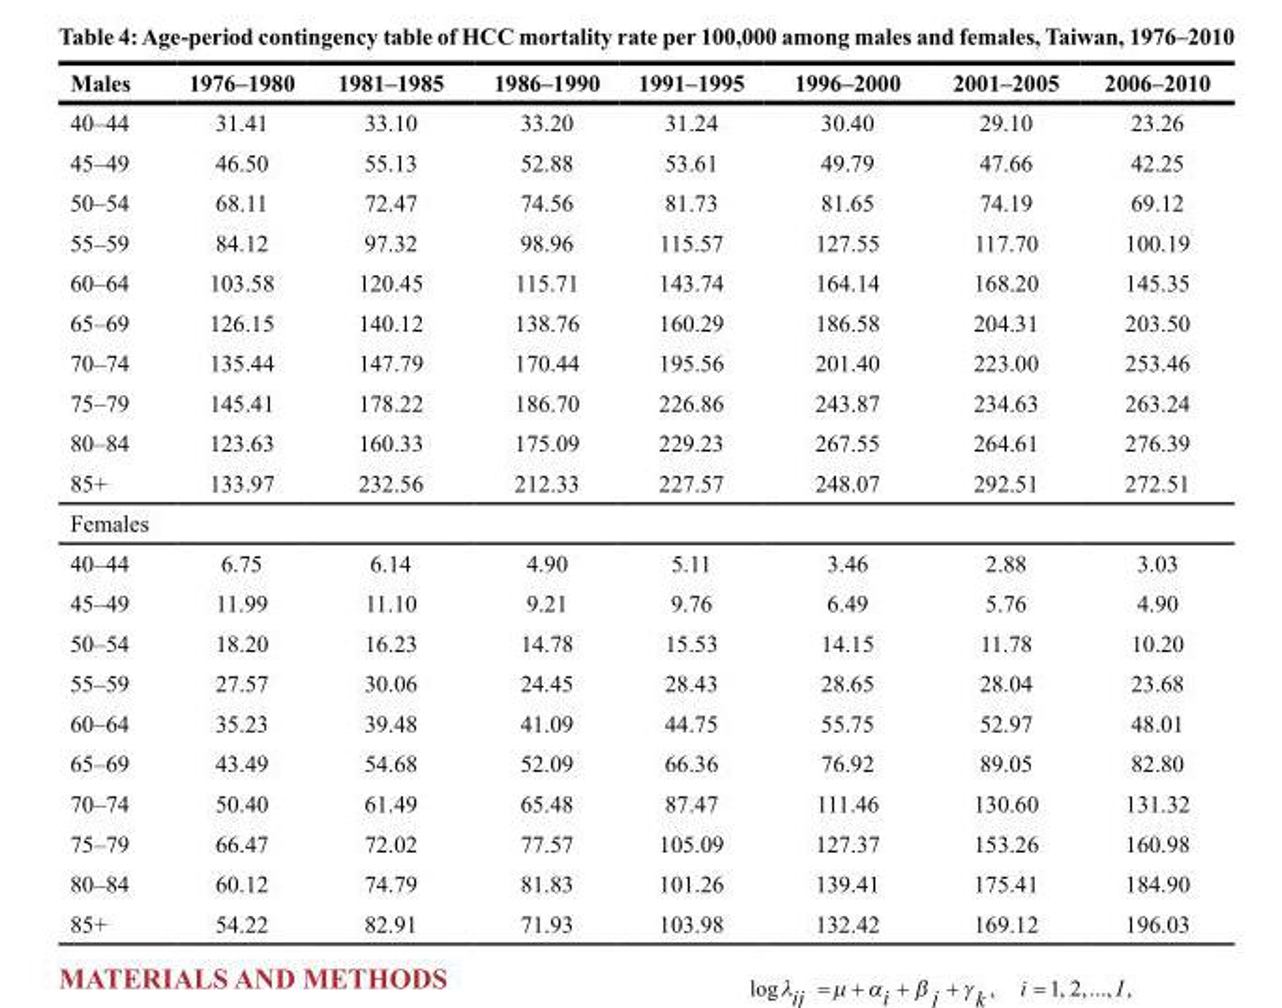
<table><thead><tr><td>Males</td><td>1976–1980</td><td>1981–1985</td><td>1986–1990</td><td>1991–1995</td><td>1996–2000</td><td>2001–2005</td><td>2006–2010</td></tr></thead><tbody><tr><td>40–44</td><td>31.41</td><td>33.10</td><td>33.20</td><td>31.24</td><td>30.40</td><td>29.10</td><td>23.26</td></tr><tr><td>45–49</td><td>46.50</td><td>55.13</td><td>52.88</td><td>53.61</td><td>49.79</td><td>47.66</td><td>42.25</td></tr><tr><td>50–54</td><td>68.11</td><td>72.47</td><td>74.56</td><td>81.73</td><td>81.65</td><td>74.19</td><td>69.12</td></tr><tr><td>55–59</td><td>84.12</td><td>97.32</td><td>98.96</td><td>115.57</td><td>127.55</td><td>117.70</td><td>100.19</td></tr><tr><td>60–64</td><td>103.58</td><td>120.45</td><td>115.71</td><td>143.74</td><td>164.14</td><td>168.20</td><td>145.35</td></tr><tr><td>65–69</td><td>126.15</td><td>140.12</td><td>138.76</td><td>160.29</td><td>186.58</td><td>204.31</td><td>203.50</td></tr><tr><td>70–74</td><td>135.44</td><td>147.79</td><td>170.44</td><td>195.56</td><td>201.40</td><td>223.00</td><td>253.46</td></tr><tr><td>75–79</td><td>145.41</td><td>178.22</td><td>186.70</td><td>226.86</td><td>243.87</td><td>234.63</td><td>263.24</td></tr><tr><td>80–84</td><td>123.63</td><td>160.33</td><td>175.09</td><td>229.23</td><td>267.55</td><td>264.61</td><td>276.39</td></tr><tr><td>85+</td><td>133.97</td><td>232.56</td><td>212.33</td><td>227.57</td><td>248.07</td><td>292.51</td><td>272.51</td></tr><tr><td colspan="8">Females</td></tr><tr><td>40–44</td><td>6.75</td><td>6.14</td><td>4.90</td><td>5.11</td><td>3.46</td><td>2.88</td><td>3.03</td></tr><tr><td>45–49</td><td>11.99</td><td>11.10</td><td>9.21</td><td>9.76</td><td>6.49</td><td>5.76</td><td>4.90</td></tr><tr><td>50–54</td><td>18.20</td><td>16.23</td><td>14.78</td><td>15.53</td><td>14.15</td><td>11.78</td><td>10.20</td></tr><tr><td>55–59</td><td>27.57</td><td>30.06</td><td>24.45</td><td>28.43</td><td>28.65</td><td>28.04</td><td>23.68</td></tr><tr><td>60–64</td><td>35.23</td><td>39.48</td><td>41.09</td><td>44.75</td><td>55.75</td><td>52.97</td><td>48.01</td></tr><tr><td>65–69</td><td>43.49</td><td>54.68</td><td>52.09</td><td>66.36</td><td>76.92</td><td>89.05</td><td>82.80</td></tr><tr><td>70–74</td><td>50.40</td><td>61.49</td><td>65.48</td><td>87.47</td><td>111.46</td><td>130.60</td><td>131.32</td></tr><tr><td>75–79</td><td>66.47</td><td>72.02</td><td>77.57</td><td>105.09</td><td>127.37</td><td>153.26</td><td>160.98</td></tr><tr><td>80–84</td><td>60.12</td><td>74.79</td><td>81.83</td><td>101.26</td><td>139.41</td><td>175.41</td><td>184.90</td></tr><tr><td>85+</td><td>54.22</td><td>82.91</td><td>71.93</td><td>103.98</td><td>132.42</td><td>169.12</td><td>196.03</td></tr></tbody></table>